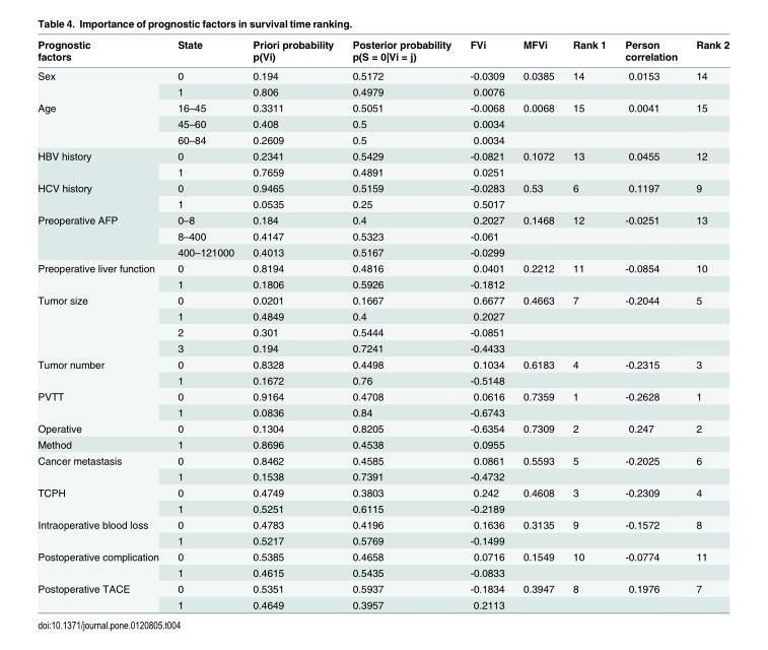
<table><thead><tr><td>Prognostic factors</td><td>State</td><td>Priori probability p(Vi)</td><td>Posterior probability p(S = 0|Vi = j)</td><td>FVi</td><td>MFVi</td><td>Rank 1</td><td>Person correlation</td><td>Rank 2</td></tr></thead><tbody><tr><td rowspan="2">Sex</td><td>0</td><td>0.194</td><td>0.5172</td><td>-0.0309</td><td>0.0385</td><td>14</td><td>0.0153</td><td>14</td></tr><tr><td>1</td><td>0.806</td><td>0.4979</td><td>0.0076</td><td></td><td></td><td></td><td></td></tr><tr><td rowspan="3">Age</td><td>16–45</td><td>0.3311</td><td>0.5051</td><td>-0.0068</td><td>0.0068</td><td>15</td><td>0.0041</td><td>15</td></tr><tr><td>45–60</td><td>0.408</td><td>0.5</td><td>0.0034</td><td></td><td></td><td></td><td></td></tr><tr><td>60–84</td><td>0.2609</td><td>0.5</td><td>0.0034</td><td></td><td></td><td></td><td></td></tr><tr><td rowspan="2">HBV history</td><td>0</td><td>0.2341</td><td>0.5429</td><td>-0.0821</td><td>0.1072</td><td>13</td><td>0.0455</td><td>12</td></tr><tr><td>1</td><td>0.7659</td><td>0.4891</td><td>0.0251</td><td></td><td></td><td></td><td></td></tr><tr><td rowspan="2">HCV history</td><td>0</td><td>0.9465</td><td>0.5159</td><td>-0.0283</td><td>0.53</td><td>6</td><td>0.1197</td><td>9</td></tr><tr><td>1</td><td>0.0535</td><td>0.25</td><td>0.5017</td><td></td><td></td><td></td><td></td></tr><tr><td rowspan="3">Preoperative AFP</td><td>0–8</td><td>0.184</td><td>0.4</td><td>0.2027</td><td>0.1468</td><td>12</td><td>-0.0251</td><td>13</td></tr><tr><td>8–400</td><td>0.4147</td><td>0.5323</td><td>-0.061</td><td></td><td></td><td></td><td></td></tr><tr><td>400–121000</td><td>0.4013</td><td>0.5167</td><td>-0.0299</td><td></td><td></td><td></td><td></td></tr><tr><td rowspan="2">Preoperative liver function</td><td>0</td><td>0.8194</td><td>0.4816</td><td>0.0401</td><td>0.2212</td><td>11</td><td>-0.0854</td><td>10</td></tr><tr><td>1</td><td>0.1806</td><td>0.5926</td><td>-0.1812</td><td></td><td></td><td></td><td></td></tr><tr><td rowspan="4">Tumor size</td><td>0</td><td>0.0201</td><td>0.1667</td><td>0.6677</td><td>0.4663</td><td>7</td><td>-0.2044</td><td>5</td></tr><tr><td>1</td><td>0.4849</td><td>0.4</td><td>0.2027</td><td></td><td></td><td></td><td></td></tr><tr><td>2</td><td>0.301</td><td>0.5444</td><td>-0.0851</td><td></td><td></td><td></td><td></td></tr><tr><td>3</td><td>0.194</td><td>0.7241</td><td>-0.4433</td><td></td><td></td><td></td><td></td></tr><tr><td rowspan="2">Tumor number</td><td>0</td><td>0.8328</td><td>0.4498</td><td>0.1034</td><td>0.6183</td><td>4</td><td>-0.2315</td><td>3</td></tr><tr><td>1</td><td>0.1672</td><td>0.76</td><td>-0.5148</td><td></td><td></td><td></td><td></td></tr><tr><td rowspan="2">PVTT</td><td>0</td><td>0.9164</td><td>0.4708</td><td>0.0616</td><td>0.7359</td><td>1</td><td>-0.2628</td><td>1</td></tr><tr><td>1</td><td>0.0836</td><td>0.84</td><td>-0.6743</td><td></td><td></td><td></td><td></td></tr><tr><td>Operative</td><td>0</td><td>0.1304</td><td>0.8205</td><td>-0.6354</td><td>0.7309</td><td>2</td><td>0.247</td><td>2</td></tr><tr><td>Method</td><td>1</td><td>0.8696</td><td>0.4538</td><td>0.0955</td><td></td><td></td><td></td><td></td></tr><tr><td rowspan="2">Cancer metastasis</td><td>0</td><td>0.8462</td><td>0.4585</td><td>0.0861</td><td>0.5593</td><td>5</td><td>-0.2025</td><td>6</td></tr><tr><td>1</td><td>0.1538</td><td>0.7391</td><td>-0.4732</td><td></td><td></td><td></td><td></td></tr><tr><td rowspan="2">TCPH</td><td>0</td><td>0.4749</td><td>0.3803</td><td>0.242</td><td>0.4608</td><td>3</td><td>-0.2309</td><td>4</td></tr><tr><td>1</td><td>0.5251</td><td>0.6115</td><td>-0.2189</td><td></td><td></td><td></td><td></td></tr><tr><td rowspan="2">Intraoperative blood loss</td><td>0</td><td>0.4783</td><td>0.4196</td><td>0.1636</td><td>0.3135</td><td>9</td><td>-0.1572</td><td>8</td></tr><tr><td>1</td><td>0.5217</td><td>0.5769</td><td>-0.1499</td><td></td><td></td><td></td><td></td></tr><tr><td rowspan="2">Postoperative complication</td><td>0</td><td>0.5385</td><td>0.4658</td><td>0.0716</td><td>0.1549</td><td>10</td><td>-0.0774</td><td>11</td></tr><tr><td>1</td><td>0.4615</td><td>0.5435</td><td>-0.0833</td><td></td><td></td><td></td><td></td></tr><tr><td rowspan="2">Postoperative TACE</td><td>0</td><td>0.5351</td><td>0.5937</td><td>-0.1834</td><td>0.3947</td><td>8</td><td>0.1976</td><td>7</td></tr><tr><td>1</td><td>0.4649</td><td>0.3957</td><td>0.2113</td><td></td><td></td><td></td><td></td></tr></tbody></table>